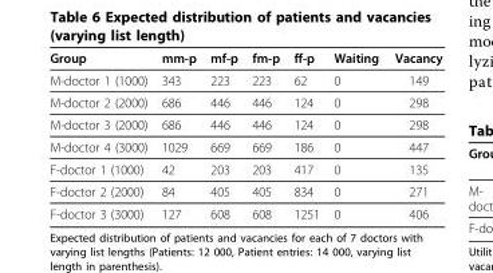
<table><thead><tr><td>Group</td><td>mm-p</td><td>mf-p</td><td>fm-p</td><td>ff-p</td><td>Waiting</td><td>Vacancy</td></tr></thead><tbody><tr><td>M-doctor 1 (1000)</td><td>343</td><td>223</td><td>223</td><td>62</td><td>0</td><td>149</td></tr><tr><td>M-doctor 2 (2000)</td><td>686</td><td>446</td><td>446</td><td>124</td><td>0</td><td>298</td></tr><tr><td>M-doctor 3 (2000)</td><td>686</td><td>446</td><td>446</td><td>124</td><td>0</td><td>298</td></tr><tr><td>M-doctor 4 (3000)</td><td>1029</td><td>669</td><td>669</td><td>186</td><td>0</td><td>447</td></tr><tr><td>F-doctor 1 (1000)</td><td>42</td><td>203</td><td>203</td><td>417</td><td>0</td><td>135</td></tr><tr><td>F-doctor 2 (2000)</td><td>84</td><td>405</td><td>405</td><td>834</td><td>0</td><td>271</td></tr><tr><td>F-doctor 3 (3000)</td><td>127</td><td>608</td><td>608</td><td>1251</td><td>0</td><td>406</td></tr></tbody></table>